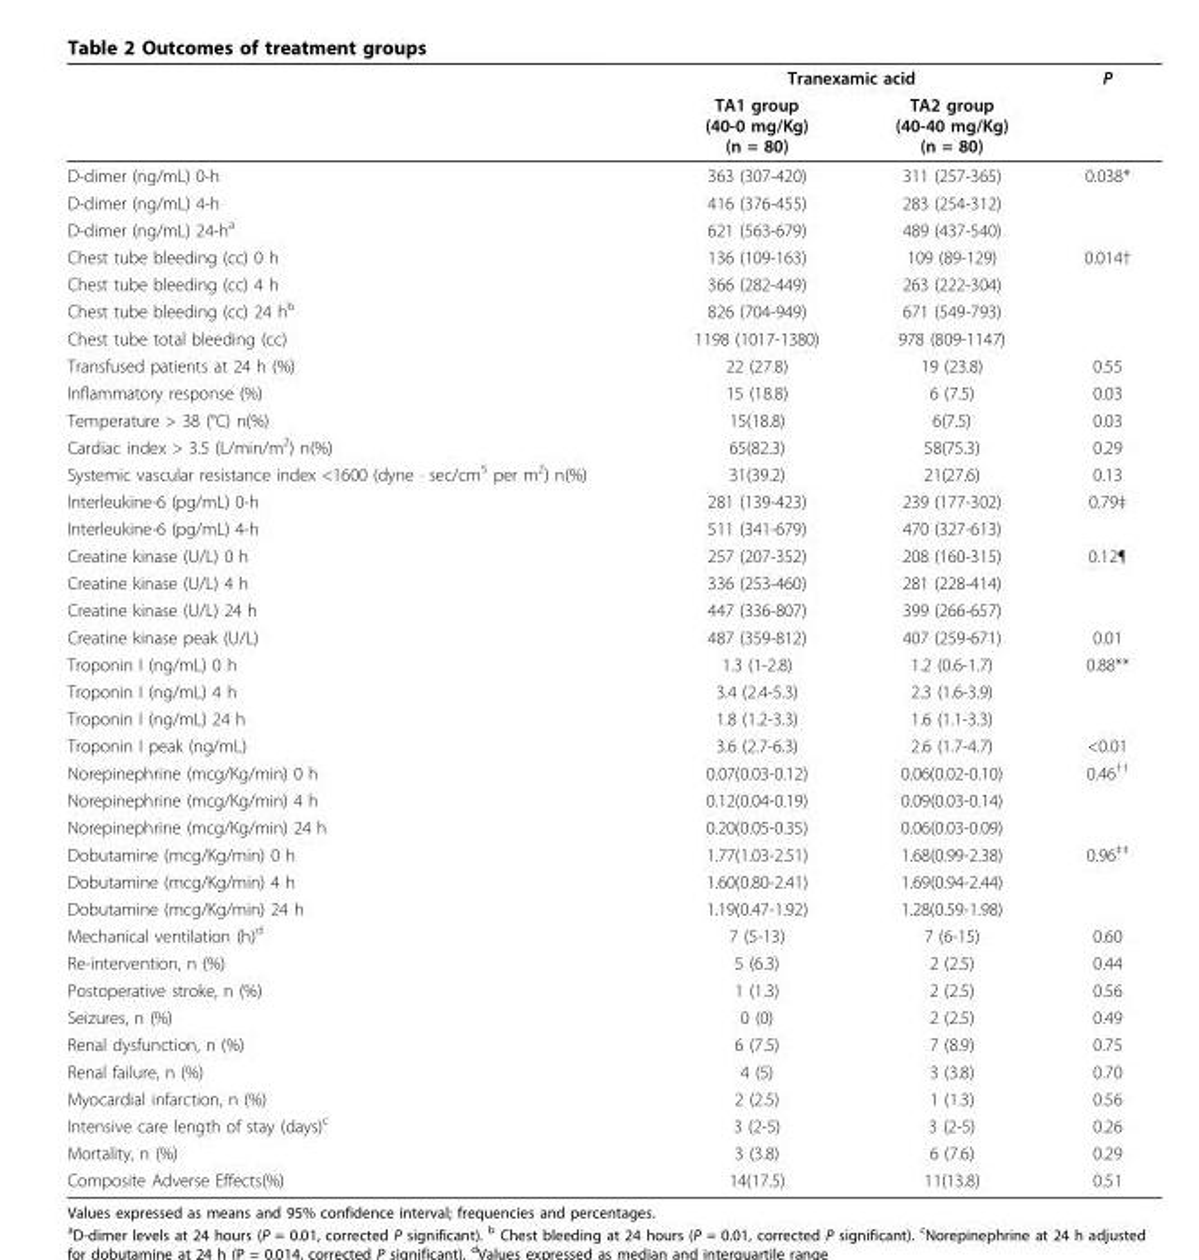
<table><thead><tr><td rowspan="2"></td><td colspan="2">Tranexamic acid</td><td rowspan="2">P</td></tr><tr><td>TA1 group (40-0 mg/Kg) (n = 80)</td><td>TA2 group (40-40 mg/Kg) (n = 80)</td></tr></thead><tbody><tr><td>D-dimer (ng/mL) 0-h</td><td>363 (307-420)</td><td>311 (257-365)</td><td>0.038*</td></tr><tr><td>D-dimer (ng/mL) 4-h</td><td>416 (376-455)</td><td>283 (254-312)</td><td></td></tr><tr><td>D-dimer (ng/mL) 24-h<sup>a</sup></td><td>621 (563-679)</td><td>489 (437-540)</td><td></td></tr><tr><td>Chest tube bleeding (cc) 0 h</td><td>136 (109-163)</td><td>109 (89-129)</td><td>0.014†</td></tr><tr><td>Chest tube bleeding (cc) 4 h</td><td>366 (282-449)</td><td>263 (222-304)</td><td></td></tr><tr><td>Chest tube bleeding (cc) 24 h<sup>b</sup></td><td>826 (704-949)</td><td>671 (549-793)</td><td></td></tr><tr><td>Chest tube total bleeding (cc)</td><td>1198 (1017-1380)</td><td>978 (809-1147)</td><td></td></tr><tr><td>Transfused patients at 24 h (%)</td><td>22 (27.8)</td><td>19 (23.8)</td><td>0.55</td></tr><tr><td>Inflammatory response (%)</td><td>15 (18.8)</td><td>6 (7.5)</td><td>0.03</td></tr><tr><td>Temperature &gt; 38 (°C) n(%)</td><td>15(18.8)</td><td>6(7.5)</td><td>0.03</td></tr><tr><td>Cardiac index &gt; 3.5 (L/min/m<sup>2</sup>) n(%)</td><td>65(82.3)</td><td>58(75.3)</td><td>0.29</td></tr><tr><td>Systemic vascular resistance index &lt;1600 (dyne · sec/cm<sup>5</sup> per m<sup>2</sup>) n(%)</td><td>31(39.2)</td><td>21(27.6)</td><td>0.13</td></tr><tr><td>Interleukine-6 (pg/mL) 0-h</td><td>281 (139-423)</td><td>239 (177-302)</td><td>0.79‡</td></tr><tr><td>Interleukine-6 (pg/mL) 4-h</td><td>511 (341-679)</td><td>470 (327-613)</td><td></td></tr><tr><td>Creatine kinase (U/L) 0 h</td><td>257 (207-352)</td><td>208 (160-315)</td><td>0.12¶</td></tr><tr><td>Creatine kinase (U/L) 4 h</td><td>336 (253-460)</td><td>281 (228-414)</td><td></td></tr><tr><td>Creatine kinase (U/L) 24 h</td><td>447 (336-807)</td><td>399 (266-657)</td><td></td></tr><tr><td>Creatine kinase peak (U/L)</td><td>487 (359-812)</td><td>407 (259-671)</td><td>0.01</td></tr><tr><td>Troponin I (ng/mL) 0 h</td><td>1.3 (1-2.8)</td><td>1.2 (0.6-1.7)</td><td>0.88**</td></tr><tr><td>Troponin I (ng/mL) 4 h</td><td>3.4 (2.4-5.3)</td><td>2.3 (1.6-3.9)</td><td></td></tr><tr><td>Troponin I (ng/mL) 24 h</td><td>1.8 (1.2-3.3)</td><td>1.6 (1.1-3.3)</td><td></td></tr><tr><td>Troponin I peak (ng/mL)</td><td>3.6 (2.7-6.3)</td><td>2.6 (1.7-4.7)</td><td>&lt;0.01</td></tr><tr><td>Norepinephrine (mcg/Kg/min) 0 h</td><td>0.07(0.03-0.12)</td><td>0.06(0.02-0.10)</td><td>0.46<sup>††</sup></td></tr><tr><td>Norepinephrine (mcg/Kg/min) 4 h</td><td>0.12(0.04-0.19)</td><td>0.09(0.03-0.14)</td><td></td></tr><tr><td>Norepinephrine (mcg/Kg/min) 24 h</td><td>0.20(0.05-0.35)</td><td>0.06(0.03-0.09)</td><td></td></tr><tr><td>Dobutamine (mcg/Kg/min) 0 h</td><td>1.77(1.03-2.51)</td><td>1.68(0.99-2.38)</td><td>0.96<sup>‡‡</sup></td></tr><tr><td>Dobutamine (mcg/Kg/min) 4 h</td><td>1.60(0.80-2.41)</td><td>1.69(0.94-2.44)</td><td></td></tr><tr><td>Dobutamine (mcg/Kg/min) 24 h</td><td>1.19(0.47-1.92)</td><td>1.28(0.59-1.98)</td><td></td></tr><tr><td>Mechanical ventilation (h)<sup>d</sup></td><td>7 (5-13)</td><td>7 (6-15)</td><td>0.60</td></tr><tr><td>Re-intervention, n (%)</td><td>5 (6.3)</td><td>2 (2.5)</td><td>0.44</td></tr><tr><td>Postoperative stroke, n (%)</td><td>1 (1.3)</td><td>2 (2.5)</td><td>0.56</td></tr><tr><td>Seizures, n (%)</td><td>0 (0)</td><td>2 (2.5)</td><td>0.49</td></tr><tr><td>Renal dysfunction, n (%)</td><td>6 (7.5)</td><td>7 (8.9)</td><td>0.75</td></tr><tr><td>Renal failure, n (%)</td><td>4 (5)</td><td>3 (3.8)</td><td>0.70</td></tr><tr><td>Myocardial infarction, n (%)</td><td>2 (2.5)</td><td>1 (1.3)</td><td>0.56</td></tr><tr><td>Intensive care length of stay (days)<sup>c</sup></td><td>3 (2-5)</td><td>3 (2-5)</td><td>0.26</td></tr><tr><td>Mortality, n (%)</td><td>3 (3.8)</td><td>6 (7.6)</td><td>0.29</td></tr><tr><td>Composite Adverse Effects(%)</td><td>14(17.5)</td><td>11(13.8)</td><td>0.51</td></tr></tbody></table>